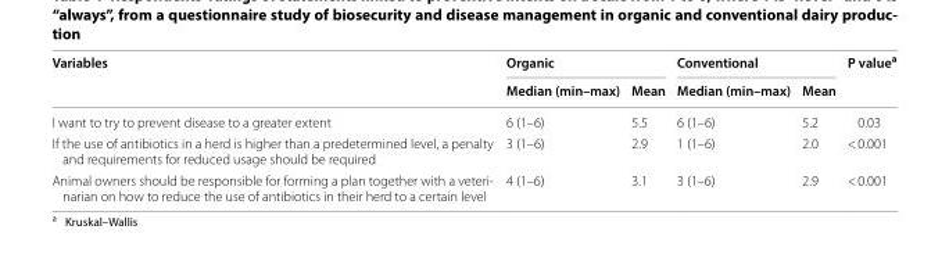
<table><thead><tr><td rowspan="2">Variables</td><td colspan="2">Organic</td><td colspan="2">Conventional</td><td rowspan="2">P value<sup>a</sup></td></tr><tr><td>Median (min–max)</td><td>Mean</td><td>Median (min–max)</td><td>Mean</td></tr></thead><tbody><tr><td>I want to try to prevent disease to a greater extent</td><td>6 (1–6)</td><td>5.5</td><td>6 (1–6)</td><td>5.2</td><td>0.03</td></tr><tr><td>If the use of antibiotics in a herd is higher than a predetermined level, a penalty and requirements for reduced usage should be required</td><td>3 (1–6)</td><td>2.9</td><td>1 (1–6)</td><td>2.0</td><td>&lt; 0.001</td></tr><tr><td>Animal owners should be responsible for forming a plan together with a veteri- narian on how to reduce the use of antibiotics in their herd to a certain level</td><td>4 (1–6)</td><td>3.1</td><td>3 (1–6)</td><td>2.9</td><td>&lt; 0.001</td></tr></tbody></table>